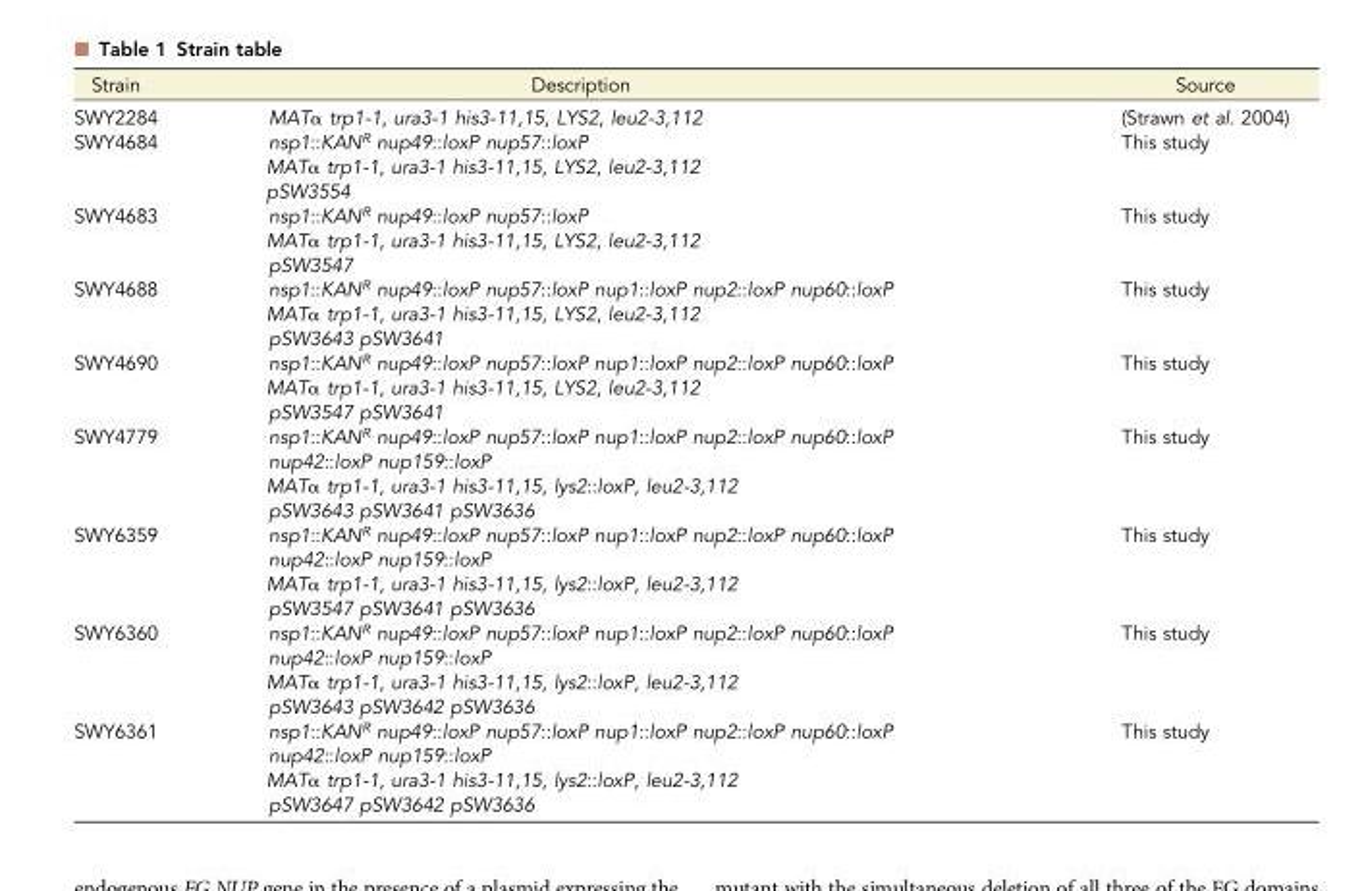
<table><thead><tr><td>Strain</td><td>Description</td><td>Source</td></tr></thead><tbody><tr><td>SWY2284</td><td>MATα trp1-1, ura3-1 his3-11,15, LYS2, leu2-3,112</td><td>(Strawn et al. 2004)</td></tr><tr><td>SWY4684</td><td>nsp1::KAN<sup>R</sup> nup49::loxP nup57::loxP MATα trp1-1, ura3-1 his3-11,15, LYS2, leu2-3,112 pSW3554</td><td>This study</td></tr><tr><td>SWY4683</td><td>nsp1::KAN<sup>R</sup> nup49::loxP nup57::loxP MATα trp1-1, ura3-1 his3-11,15, LYS2, leu2-3,112 pSW3547</td><td>This study</td></tr><tr><td>SWY4688</td><td>nsp1::KAN<sup>R</sup> nup49::loxP nup57::loxP nup1::loxP nup2::loxP nup60::loxP MATα trp1-1, ura3-1 his3-11,15, LYS2, leu2-3,112 pSW3643 pSW3641</td><td>This study</td></tr><tr><td>SWY4690</td><td>nsp1::KAN<sup>R</sup> nup49::loxP nup57::loxP nup1::loxP nup2::loxP nup60::loxP MATα trp1-1, ura3-1 his3-11,15, LYS2, leu2-3,112 pSW3547 pSW3641</td><td>This study</td></tr><tr><td>SWY4779</td><td>nsp1::KAN<sup>R</sup> nup49::loxP nup57::loxP nup1::loxP nup2::loxP nup60::loxP nup42::loxP nup159::loxP MATα trp1-1, ura3-1 his3-11,15, lys2::loxP, leu2-3,112 pSW3643 pSW3641 pSW3636</td><td>This study</td></tr><tr><td>SWY6359</td><td>nsp1::KAN<sup>R</sup> nup49::loxP nup57::loxP nup1::loxP nup2::loxP nup60::loxP nup42::loxP nup159::loxP MATα trp1-1, ura3-1 his3-11,15, lys2::loxP, leu2-3,112 pSW3547 pSW3641 pSW3636</td><td>This study</td></tr><tr><td>SWY6360</td><td>nsp1::KAN<sup>R</sup> nup49::loxP nup57::loxP nup1::loxP nup2::loxP nup60::loxP nup42::loxP nup159::loxP MATα trp1-1, ura3-1 his3-11,15, lys2::loxP, leu2-3,112 pSW3643 pSW3642 pSW3636</td><td>This study</td></tr><tr><td>SWY6361</td><td>nsp1::KAN<sup>R</sup> nup49::loxP nup57::loxP nup1::loxP nup2::loxP nup60::loxP nup42::loxP nup159::loxP MATα trp1-1, ura3-1 his3-11,15, lys2::loxP, leu2-3,112 pSW3647 pSW3642 pSW3636</td><td>This study</td></tr></tbody></table>